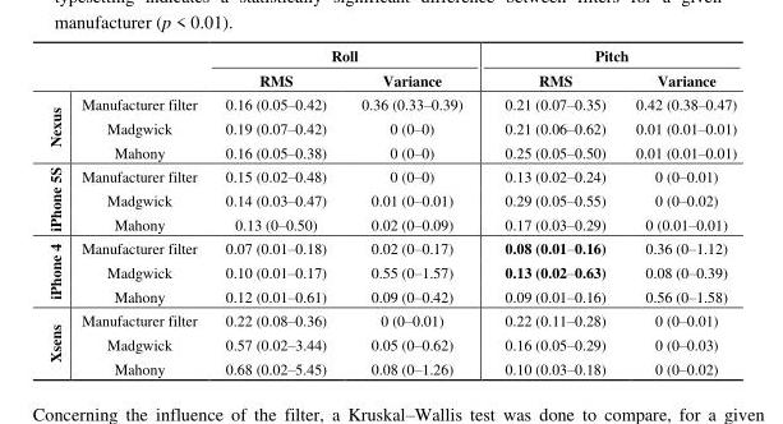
<table><thead><tr><td rowspan="2"></td><td rowspan="2"></td><td colspan="2">Roll</td><td colspan="2">Pitch</td></tr><tr><td>RMS</td><td>Variance</td><td>RMS</td><td>Variance</td></tr></thead><tbody><tr><td rowspan="3">Nexus</td><td>Manufacturer filter</td><td>0.16 (0.05–0.42)</td><td>0.36 (0.33–0.39)</td><td>0.21 (0.07–0.35)</td><td>0.42 (0.38–0.47)</td></tr><tr><td>Madgwick</td><td>0.19 (0.07–0.42)</td><td>0 (0–0)</td><td>0.21 (0.06–0.62)</td><td>0.01 (0.01–0.01)</td></tr><tr><td>Mahony</td><td>0.16 (0.05–0.38)</td><td>0 (0–0)</td><td>0.25 (0.05–0.50)</td><td>0.01 (0.01–0.01)</td></tr><tr><td rowspan="3">iPhone 5S</td><td>Manufacturer filter</td><td>0.15 (0.02–0.48)</td><td>0 (0–0)</td><td>0.13 (0.02–0.24)</td><td>0 (0–0.01)</td></tr><tr><td>Madgwick</td><td>0.14 (0.03–0.47)</td><td>0.01 (0–0.01)</td><td>0.29 (0.05–0.55)</td><td>0 (0–0.02)</td></tr><tr><td>Mahony</td><td>0.13 (0–0.50)</td><td>0.02 (0–0.09)</td><td>0.17 (0.03–0.29)</td><td>0 (0.01–0.01)</td></tr><tr><td rowspan="3">iPhone 4</td><td>Manufacturer filter</td><td>0.07 (0.01–0.18)</td><td>0.02 (0–0.17)</td><td>0.08 (0.01–0.16)</td><td>0.36 (0–1.12)</td></tr><tr><td>Madgwick</td><td>0.10 (0.01–0.17)</td><td>0.55 (0–1.57)</td><td>0.13 (0.02–0.63)</td><td>0.08 (0–0.39)</td></tr><tr><td>Mahony</td><td>0.12 (0.01–0.61)</td><td>0.09 (0–0.42)</td><td>0.09 (0.01–0.16)</td><td>0.56 (0–1.58)</td></tr><tr><td rowspan="3">Xsens</td><td>Manufacturer filter</td><td>0.22 (0.08–0.36)</td><td>0 (0–0.01)</td><td>0.22 (0.11–0.28)</td><td>0 (0–0.01)</td></tr><tr><td>Madgwick</td><td>0.57 (0.02–3.44)</td><td>0.05 (0–0.62)</td><td>0.16 (0.05–0.29)</td><td>0 (0–0.03)</td></tr><tr><td>Mahony</td><td>0.68 (0.02–5.45)</td><td>0.08 (0–1.26)</td><td>0.10 (0.03–0.18)</td><td>0 (0–0.02)</td></tr></tbody></table>